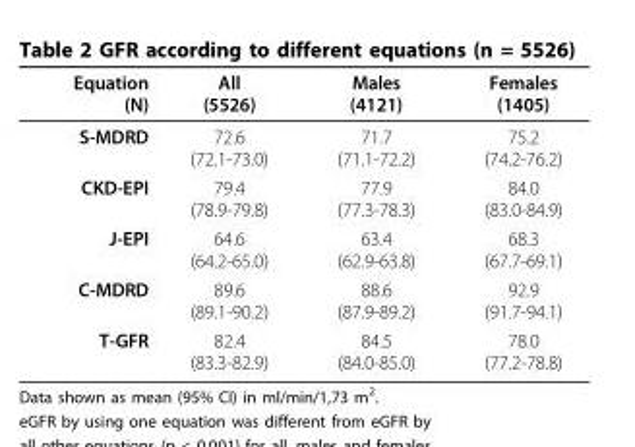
<table><thead><tr><td>Equation (N)</td><td>All (5526)</td><td>Males (4121)</td><td>Females (1405)</td></tr></thead><tbody><tr><td>S-MDRD</td><td>72.6 (72.1-73.0)</td><td>71.7 (71.1-72.2)</td><td>75.2 (74.2-76.2)</td></tr><tr><td>CKD-EPI</td><td>79.4 (78.9-79.8)</td><td>77.9 (77.3-78.3)</td><td>84.0 (83.0-84.9)</td></tr><tr><td>J-EPI</td><td>64.6 (64.2-65.0)</td><td>63.4 (62.9-63.8)</td><td>68.3 (67.7-69.1)</td></tr><tr><td>C-MDRD</td><td>89.6 (89.1-90.2)</td><td>88.6 (87.9-89.2)</td><td>92.9 (91.7-94.1)</td></tr><tr><td>T-GFR</td><td>82.4 (83.3-82.9)</td><td>84.5 (84.0-85.0)</td><td>78.0 (77.2-78.8)</td></tr></tbody></table>